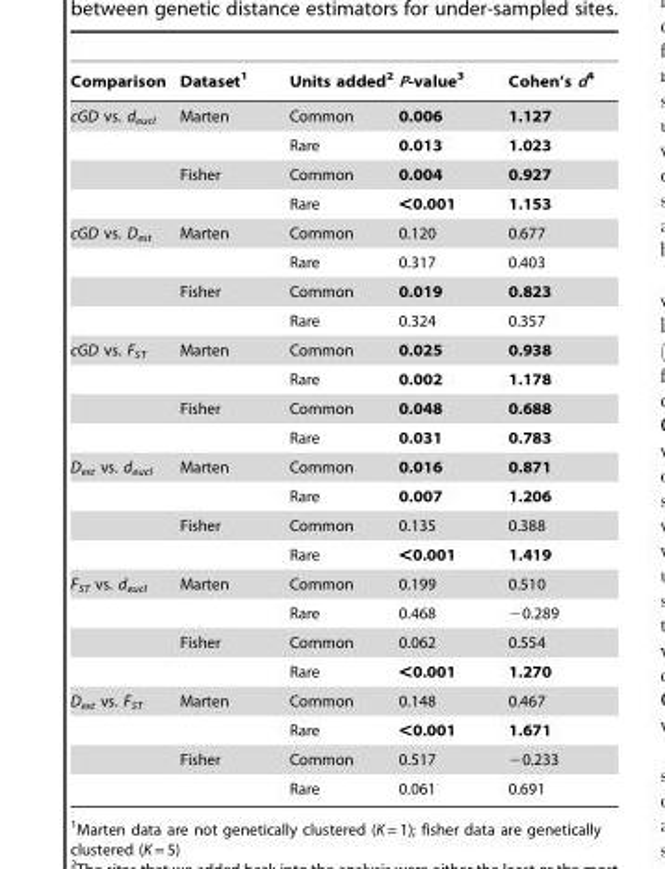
<table><thead><tr><td>Comparison</td><td>Dataset<sup>1</sup></td><td>Units added<sup>2</sup></td><td>P-value<sup>3</sup></td><td>Cohen’s d4</td></tr></thead><tbody><tr><td rowspan="4">cGD vs. d<sub>eucl</sub></td><td>Marten</td><td>Common</td><td>0.006</td><td>1.127</td></tr><tr><td></td><td>Rare</td><td>0.013</td><td>1.023</td></tr><tr><td>Fisher</td><td>Common</td><td>0.004</td><td>0.927</td></tr><tr><td></td><td>Rare</td><td>&lt;0.001</td><td>1.153</td></tr><tr><td rowspan="4">cGD vs. D<sub>est</sub></td><td>Marten</td><td>Common</td><td>0.120</td><td>0.677</td></tr><tr><td></td><td>Rare</td><td>0.317</td><td>0.403</td></tr><tr><td>Fisher</td><td>Common</td><td>0.019</td><td>0.823</td></tr><tr><td></td><td>Rare</td><td>0.324</td><td>0.357</td></tr><tr><td rowspan="4">cGD vs. F<sub>ST</sub></td><td>Marten</td><td>Common</td><td>0.025</td><td>0.938</td></tr><tr><td></td><td>Rare</td><td>0.002</td><td>1.178</td></tr><tr><td>Fisher</td><td>Common</td><td>0.048</td><td>0.688</td></tr><tr><td></td><td>Rare</td><td>0.031</td><td>0.783</td></tr><tr><td rowspan="4">D<sub>est</sub> vs. d<sub>eucl</sub></td><td>Marten</td><td>Common</td><td>0.016</td><td>0.871</td></tr><tr><td></td><td>Rare</td><td>0.007</td><td>1.206</td></tr><tr><td>Fisher</td><td>Common</td><td>0.135</td><td>0.388</td></tr><tr><td></td><td>Rare</td><td>&lt;0.001</td><td>1.419</td></tr><tr><td rowspan="4">F<sub>ST</sub> vs. d<sub>eucl</sub></td><td>Marten</td><td>Common</td><td>0.199</td><td>0.510</td></tr><tr><td></td><td>Rare</td><td>0.468</td><td>−0.289</td></tr><tr><td>Fisher</td><td>Common</td><td>0.062</td><td>0.554</td></tr><tr><td></td><td>Rare</td><td>&lt;0.001</td><td>1.270</td></tr><tr><td rowspan="4">D<sub>est</sub> vs. F<sub>ST</sub></td><td>Marten</td><td>Common</td><td>0.148</td><td>0.467</td></tr><tr><td></td><td>Rare</td><td>&lt;0.001</td><td>1.671</td></tr><tr><td>Fisher</td><td>Common</td><td>0.517</td><td>−0.233</td></tr><tr><td></td><td>Rare</td><td>0.061</td><td>0.691</td></tr></tbody></table>